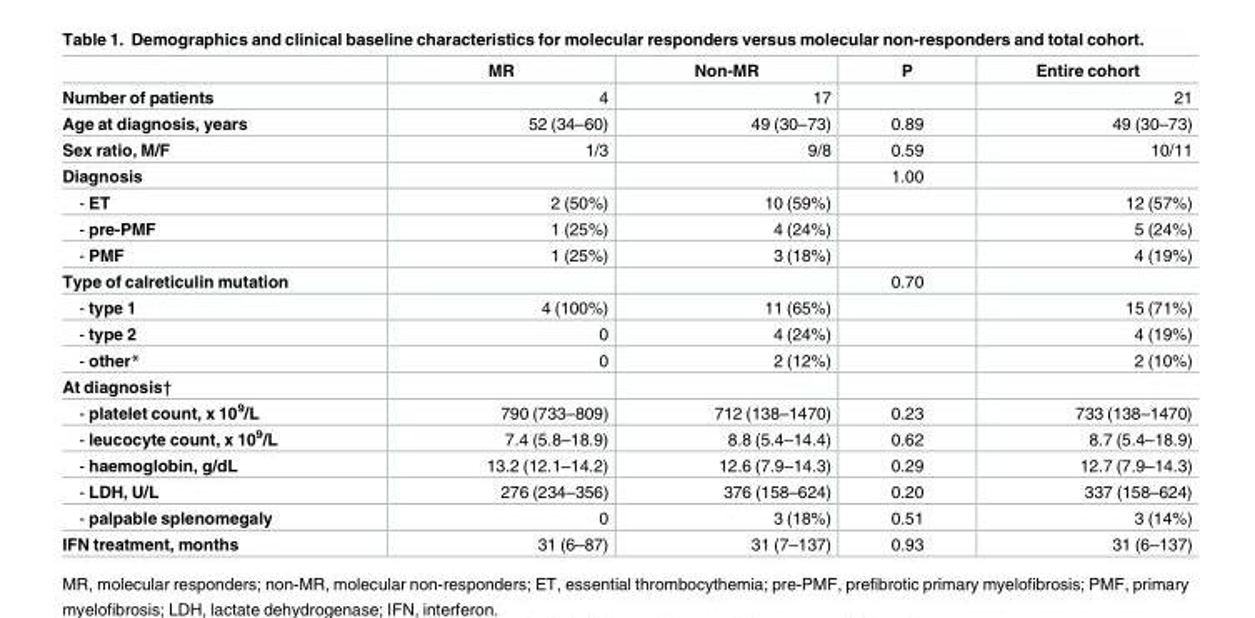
<table><thead><tr><td></td><td>MR</td><td>Non-MR</td><td>P</td><td>Entire cohort</td></tr></thead><tbody><tr><td>Number of patients</td><td>4</td><td>17</td><td></td><td>21</td></tr><tr><td>Age at diagnosis, years</td><td>52 (34–60)</td><td>49 (30–73)</td><td>0.89</td><td>49 (30–73)</td></tr><tr><td>Sex ratio, M/F</td><td>1/3</td><td>9/8</td><td>0.59</td><td>10/11</td></tr><tr><td>Diagnosis</td><td></td><td></td><td>1.00</td><td></td></tr><tr><td>- ET</td><td>2 (50%)</td><td>10 (59%)</td><td></td><td>12 (57%)</td></tr><tr><td>- pre-PMF</td><td>1 (25%)</td><td>4 (24%)</td><td></td><td>5 (24%)</td></tr><tr><td>- PMF</td><td>1 (25%)</td><td>3 (18%)</td><td></td><td>4 (19%)</td></tr><tr><td>Type of calreticulin mutation</td><td></td><td></td><td>0.70</td><td></td></tr><tr><td>- type 1</td><td>4 (100%)</td><td>11 (65%)</td><td></td><td>15 (71%)</td></tr><tr><td>- type 2</td><td>0</td><td>4 (24%)</td><td></td><td>4 (19%)</td></tr><tr><td>- other*</td><td>0</td><td>2 (12%)</td><td></td><td>2 (10%)</td></tr><tr><td colspan="5">At diagnosis†</td></tr><tr><td>- platelet count, x 10<sup>9</sup>/L</td><td>790 (733–809)</td><td>712 (138–1470)</td><td>0.23</td><td>733 (138–1470)</td></tr><tr><td>- leucocyte count, x 10<sup>9</sup>/L</td><td>7.4 (5.8–18.9)</td><td>8.8 (5.4–14.4)</td><td>0.62</td><td>8.7 (5.4–18.9)</td></tr><tr><td>- haemoglobin, g/dL</td><td>13.2 (12.1–14.2)</td><td>12.6 (7.9–14.3)</td><td>0.29</td><td>12.7 (7.9–14.3)</td></tr><tr><td>- LDH, U/L</td><td>276 (234–356)</td><td>376 (158–624)</td><td>0.20</td><td>337 (158–624)</td></tr><tr><td>- palpable splenomegaly</td><td>0</td><td>3 (18%)</td><td>0.51</td><td>3 (14%)</td></tr><tr><td>IFN treatment, months</td><td>31 (6–87)</td><td>31 (7–137)</td><td>0.93</td><td>31 (6–137)</td></tr></tbody></table>